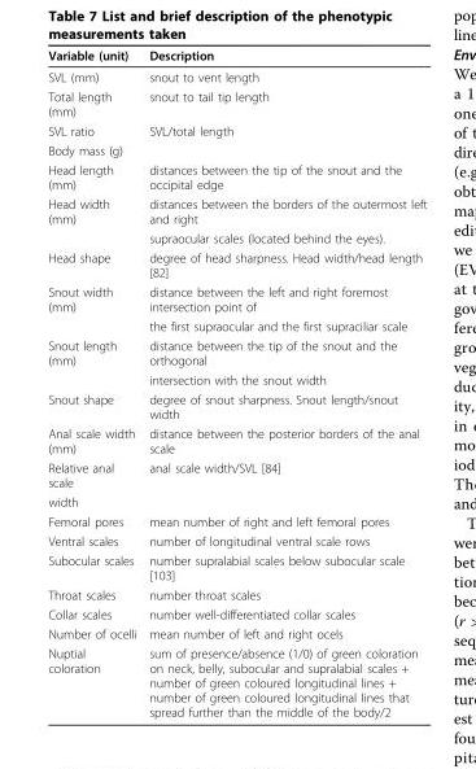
<table><thead><tr><td>Variable (unit)</td><td>Description</td></tr></thead><tbody><tr><td>SVL (mm)</td><td>snout to vent length</td></tr><tr><td>Total length (mm)</td><td>snout to tail tip length</td></tr><tr><td>SVL ratio</td><td>SVL/total length</td></tr><tr><td colspan="2">Body mass (g)</td></tr><tr><td>Head length (mm)</td><td>distances between the tip of the snout and the occipital edge</td></tr><tr><td rowspan="2">Head width (mm)</td><td>distances between the borders of the outermost left and right</td></tr><tr><td>supraocular scales (located behind the eyes).</td></tr><tr><td>Head shape</td><td>degree of head sharpness. Head width/head length [82]</td></tr><tr><td rowspan="2">Snout width (mm)</td><td>distance between the left and right foremost intersection point of</td></tr><tr><td>the first supraocular and the first supraciliar scale</td></tr><tr><td rowspan="2">Snout length (mm)</td><td>distance between the tip of the snout and the orthogonal</td></tr><tr><td>intersection with the snout width</td></tr><tr><td>Snout shape</td><td>degree of snout sharpness. Snout length/snout width</td></tr><tr><td>Anal scale width (mm)</td><td>distance between the posterior borders of the anal scale</td></tr><tr><td>Relative anal scale</td><td>anal scale width/SVL [84]</td></tr><tr><td colspan="2">width</td></tr><tr><td>Femoral pores</td><td>mean number of right and left femoral pores</td></tr><tr><td>Ventral scales</td><td>number of longitudinal ventral scale rows</td></tr><tr><td>Subocular scales</td><td>number supralabial scales below subocular scale [103]</td></tr><tr><td>Throat scales</td><td>number throat scales</td></tr><tr><td>Collar scales</td><td>number well-differentiated collar scales</td></tr><tr><td>Number of ocelli</td><td>mean number of left and right ocels</td></tr><tr><td>Nuptial coloration</td><td>sum of presence/absence (1/0) of green coloration on neck, belly, subocular and supralabial scales + number of green coloured longitudinal lines + number of green coloured longitudinal lines that spread further than the middle of the body/2</td></tr></tbody></table>